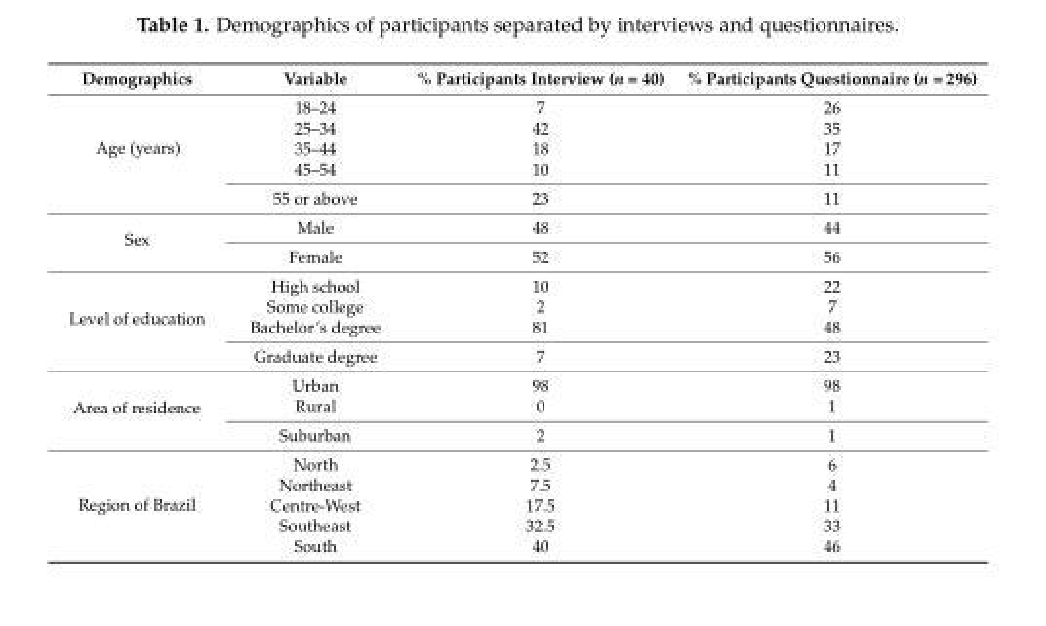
<table><thead><tr><td>Demographics</td><td>Variable</td><td>% Participants Interview (n = 40)</td><td>% Participants Questionnaire (n = 296)</td></tr></thead><tbody><tr><td rowspan="5">Age (years)</td><td>18–24</td><td>7</td><td>26</td></tr><tr><td>25–34</td><td>42</td><td>35</td></tr><tr><td>35–44</td><td>18</td><td>17</td></tr><tr><td>45–54</td><td>10</td><td>11</td></tr><tr><td>55 or above</td><td>23</td><td>11</td></tr><tr><td rowspan="2">Sex</td><td>Male</td><td>48</td><td>44</td></tr><tr><td>Female</td><td>52</td><td>56</td></tr><tr><td rowspan="4">Level of education</td><td>High school</td><td>10</td><td>22</td></tr><tr><td>Some college</td><td>2</td><td>7</td></tr><tr><td>Bachelor’s degree</td><td>81</td><td>48</td></tr><tr><td>Graduate degree</td><td>7</td><td>23</td></tr><tr><td rowspan="3">Area of residence</td><td>Urban</td><td>98</td><td>98</td></tr><tr><td>Rural</td><td>0</td><td>1</td></tr><tr><td>Suburban</td><td>2</td><td>1</td></tr><tr><td rowspan="5">Region of Brazil</td><td>North</td><td>2.5</td><td>6</td></tr><tr><td>Northeast</td><td>7.5</td><td>4</td></tr><tr><td>Centre-West</td><td>17.5</td><td>11</td></tr><tr><td>Southeast</td><td>32.5</td><td>33</td></tr><tr><td>South</td><td>40</td><td>46</td></tr></tbody></table>